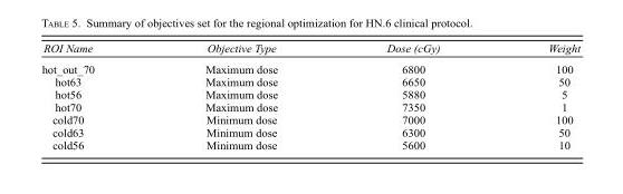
<table><thead><tr><td>ROI Name</td><td>Objective Type</td><td>Dose (cGy)</td><td>Weight</td></tr></thead><tbody><tr><td>hot_out_70</td><td>Maximum dose</td><td>6800</td><td>100</td></tr><tr><td>hot63</td><td>Maximum dose</td><td>6650</td><td>50</td></tr><tr><td>hot56</td><td>Maximum dose</td><td>5880</td><td>5</td></tr><tr><td>hot70</td><td>Maximum dose</td><td>7350</td><td>1</td></tr><tr><td>cold70</td><td>Minimum dose</td><td>7000</td><td>100</td></tr><tr><td>cold63</td><td>Minimum dose</td><td>6300</td><td>50</td></tr><tr><td>cold56</td><td>Minimum dose</td><td>5600</td><td>10</td></tr></tbody></table>